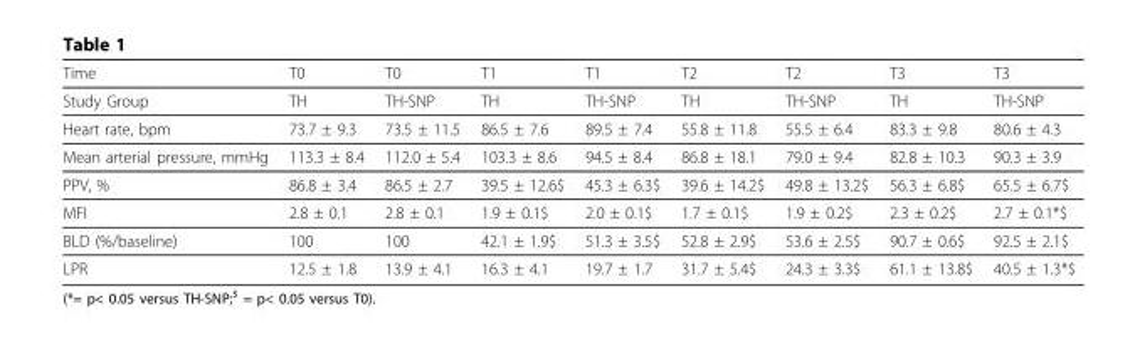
<table><thead><tr><td>Time</td><td>T0</td><td>T0</td><td>T1</td><td>T1</td><td>T2</td><td>T2</td><td>T3</td><td>T3</td></tr></thead><tbody><tr><td>Study Group</td><td>TH</td><td>TH-SNP</td><td>TH</td><td>TH-SNP</td><td>TH</td><td>TH-SNP</td><td>TH</td><td>TH-SNP</td></tr><tr><td>Heart rate, bpm</td><td>73.7 ± 9.3</td><td>73.5 ± 11.5</td><td>86.5 ± 7.6</td><td>89.5 ± 7.4</td><td>55.8 ± 11.8</td><td>55.5 ± 6.4</td><td>83.3 ± 9.8</td><td>80.6 ± 4.3</td></tr><tr><td>Mean arterial pressure, mmHg</td><td>113.3 ± 8.4</td><td>112.0 ± 5.4</td><td>103.3 ± 8.6</td><td>94.5 ± 8.4</td><td>86.8 ± 18.1</td><td>79.0 ± 9.4</td><td>82.8 ± 10.3</td><td>90.3 ± 3.9</td></tr><tr><td>PPV, %</td><td>86.8 ± 3.4</td><td>86.5 ± 2.7</td><td>39.5 ± 12.6$</td><td>45.3 ± 6.3$</td><td>39.6 ± 14.2$</td><td>49.8 ± 13.2$</td><td>56.3 ± 6.8$</td><td>65.5 ± 6.7$</td></tr><tr><td>MFI</td><td>2.8 ± 0.1</td><td>2.8 ± 0.1</td><td>1.9 ± 0.1$</td><td>2.0 ± 0.1$</td><td>1.7 ± 0.1$</td><td>1.9 ± 0.2$</td><td>2.3 ± 0.2$</td><td>2.7 ± 0.1*$</td></tr><tr><td>BLD (%/baseline)</td><td>100</td><td>100</td><td>42.1 ± 1.9$</td><td>51.3 ± 3.5$</td><td>52.8 ± 2.9$</td><td>53.6 ± 2.5$</td><td>90.7 ± 0.6$</td><td>92.5 ± 2.1$</td></tr><tr><td>LPR</td><td>12.5 ± 1.8</td><td>13.9 ± 4.1</td><td>16.3 ± 4.1</td><td>19.7 ± 1.7</td><td>31.7 ± 5.4$</td><td>24.3 ± 3.3$</td><td>61.1 ± 13.8$</td><td>40.5 ± 1.3*$</td></tr></tbody></table>